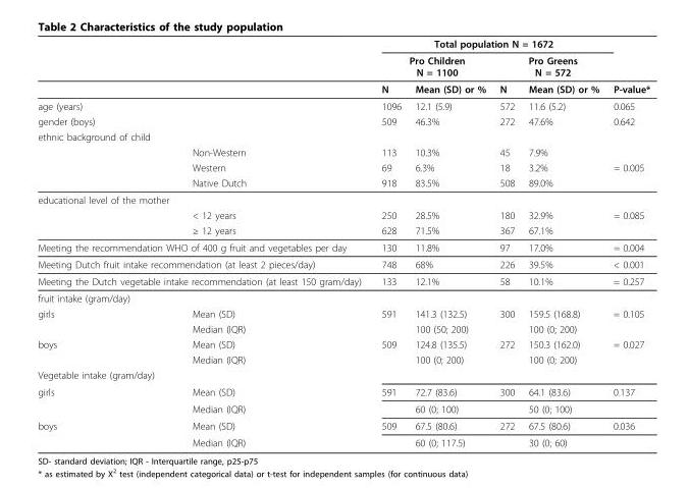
<table><thead><tr><td rowspan="3"></td><td rowspan="3"></td><td colspan="4">Total population N = 1672</td><td rowspan="3">P-value*</td></tr><tr><td colspan="2">Pro Children N = 1100</td><td colspan="2">Pro Greens N = 572</td></tr><tr><td>N</td><td>Mean (SD) or %</td><td>N</td><td>Mean (SD) or %</td></tr></thead><tbody><tr><td colspan="2">age (years)</td><td>1096</td><td>12.1 (5.9)</td><td>572</td><td>11.6 (5.2)</td><td>0.065</td></tr><tr><td colspan="2">gender (boys)</td><td>509</td><td>46.3%</td><td>272</td><td>47.6%</td><td>0.642</td></tr><tr><td colspan="7">ethnic background of child</td></tr><tr><td></td><td>Non-Western</td><td>113</td><td>10.3%</td><td>45</td><td>7.9%</td><td></td></tr><tr><td></td><td>Western</td><td>69</td><td>6.3%</td><td>18</td><td>3.2%</td><td>= 0.005</td></tr><tr><td></td><td>Native Dutch</td><td>918</td><td>83.5%</td><td>508</td><td>89.0%</td><td></td></tr><tr><td colspan="7">educational level of the mother</td></tr><tr><td></td><td>&lt; 12 years</td><td>250</td><td>28.5%</td><td>180</td><td>32.9%</td><td>= 0.085</td></tr><tr><td></td><td>≥ 12 years</td><td>628</td><td>71.5%</td><td>367</td><td>67.1%</td><td></td></tr><tr><td colspan="2">Meeting the recommendation WHO of 400 g fruit and vegetables per day</td><td>130</td><td>11.8%</td><td>97</td><td>17.0%</td><td>= 0.004</td></tr><tr><td colspan="2">Meeting Dutch fruit intake recommendation (at least 2 pieces/day)</td><td>748</td><td>68%</td><td>226</td><td>39.5%</td><td>&lt; 0.001</td></tr><tr><td colspan="2">Meeting the Dutch vegetable intake recommendation (at least 150 gram/day)</td><td>133</td><td>12.1%</td><td>58</td><td>10.1%</td><td>= 0.257</td></tr><tr><td colspan="7">fruit intake (gram/day)</td></tr><tr><td rowspan="2">girls</td><td>Mean (SD)</td><td>591</td><td>141.3 (132.5)</td><td>300</td><td>159.5 (168.8)</td><td>= 0.105</td></tr><tr><td>Median (IQR)</td><td></td><td>100 (50; 200)</td><td></td><td>100 (0; 200)</td><td></td></tr><tr><td rowspan="2">boys</td><td>Mean (SD)</td><td>509</td><td>124.8 (135.5)</td><td>272</td><td>150.3 (162.0)</td><td>= 0.027</td></tr><tr><td>Median (IQR)</td><td></td><td>100 (0; 200)</td><td></td><td>100 (0; 200)</td><td></td></tr><tr><td colspan="7">Vegetable intake (gram/day)</td></tr><tr><td rowspan="2">girls</td><td>Mean (SD)</td><td>591</td><td>72.7 (83.6)</td><td>300</td><td>64.1 (83.6)</td><td>0.137</td></tr><tr><td>Median (IQR)</td><td></td><td>60 (0; 100)</td><td></td><td>50 (0; 100)</td><td></td></tr><tr><td rowspan="2">boys</td><td>Mean (SD)</td><td>509</td><td>67.5 (80.6)</td><td>272</td><td>67.5 (80.6)</td><td>0.036</td></tr><tr><td>Median (IQR)</td><td></td><td>60 (0; 117.5)</td><td></td><td>30 (0; 60)</td><td></td></tr></tbody></table>